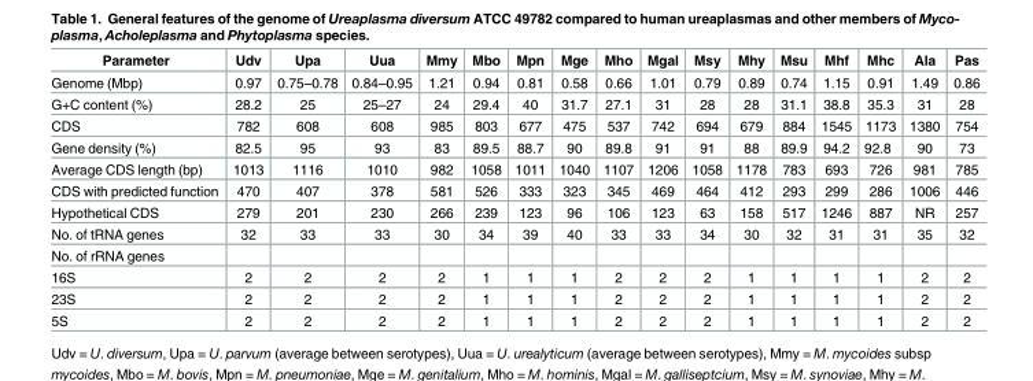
<table><thead><tr><td>Parameter</td><td>Udv</td><td>Upa</td><td>Uua</td><td>Mmy</td><td>Mbo</td><td>Mpn</td><td>Mge</td><td>Mho</td><td>Mgal</td><td>Msy</td><td>Mhy</td><td>Msu</td><td>Mhf</td><td>Mhc</td><td>Ala</td><td>Pas</td></tr></thead><tbody><tr><td>Genome (Mbp)</td><td>0.97</td><td>0.75–0.78</td><td>0.84–0.95</td><td>1.21</td><td>0.94</td><td>0.81</td><td>0.58</td><td>0.66</td><td>1.01</td><td>0.79</td><td>0.89</td><td>0.74</td><td>1.15</td><td>0.91</td><td>1.49</td><td>0.86</td></tr><tr><td>G+C content (%)</td><td>28.2</td><td>25</td><td>25–27</td><td>24</td><td>29.4</td><td>40</td><td>31.7</td><td>27.1</td><td>31</td><td>28</td><td>28</td><td>31.1</td><td>38.8</td><td>35.3</td><td>31</td><td>28</td></tr><tr><td>CDS</td><td>782</td><td>608</td><td>608</td><td>985</td><td>803</td><td>677</td><td>475</td><td>537</td><td>742</td><td>694</td><td>679</td><td>884</td><td>1545</td><td>1173</td><td>1380</td><td>754</td></tr><tr><td>Gene density (%)</td><td>82.5</td><td>95</td><td>93</td><td>83</td><td>89.5</td><td>88.7</td><td>90</td><td>89.8</td><td>91</td><td>91</td><td>88</td><td>89.9</td><td>94.2</td><td>92.8</td><td>90</td><td>73</td></tr><tr><td>Average CDS length (bp)</td><td>1013</td><td>1116</td><td>1010</td><td>982</td><td>1058</td><td>1011</td><td>1040</td><td>1107</td><td>1206</td><td>1058</td><td>1178</td><td>783</td><td>693</td><td>726</td><td>981</td><td>785</td></tr><tr><td>CDS with predicted function</td><td>470</td><td>407</td><td>378</td><td>581</td><td>526</td><td>333</td><td>323</td><td>345</td><td>469</td><td>464</td><td>412</td><td>293</td><td>299</td><td>286</td><td>1006</td><td>446</td></tr><tr><td>Hypothetical CDS</td><td>279</td><td>201</td><td>230</td><td>266</td><td>239</td><td>123</td><td>96</td><td>106</td><td>123</td><td>63</td><td>158</td><td>517</td><td>1246</td><td>887</td><td>NR</td><td>257</td></tr><tr><td>No. of tRNA genes</td><td>32</td><td>33</td><td>33</td><td>30</td><td>34</td><td>39</td><td>40</td><td>33</td><td>33</td><td>34</td><td>30</td><td>32</td><td>31</td><td>31</td><td>35</td><td>32</td></tr><tr><td colspan="17">No. of rRNA genes</td></tr><tr><td>16S</td><td>2</td><td>2</td><td>2</td><td>2</td><td>1</td><td>1</td><td>1</td><td>2</td><td>2</td><td>2</td><td>1</td><td>1</td><td>1</td><td>1</td><td>2</td><td>2</td></tr><tr><td>23S</td><td>2</td><td>2</td><td>2</td><td>2</td><td>1</td><td>1</td><td>1</td><td>2</td><td>2</td><td>2</td><td>1</td><td>1</td><td>1</td><td>1</td><td>2</td><td>2</td></tr><tr><td>5S</td><td>2</td><td>2</td><td>2</td><td>2</td><td>1</td><td>1</td><td>1</td><td>2</td><td>2</td><td>2</td><td>1</td><td>1</td><td>1</td><td>1</td><td>2</td><td>2</td></tr></tbody></table>